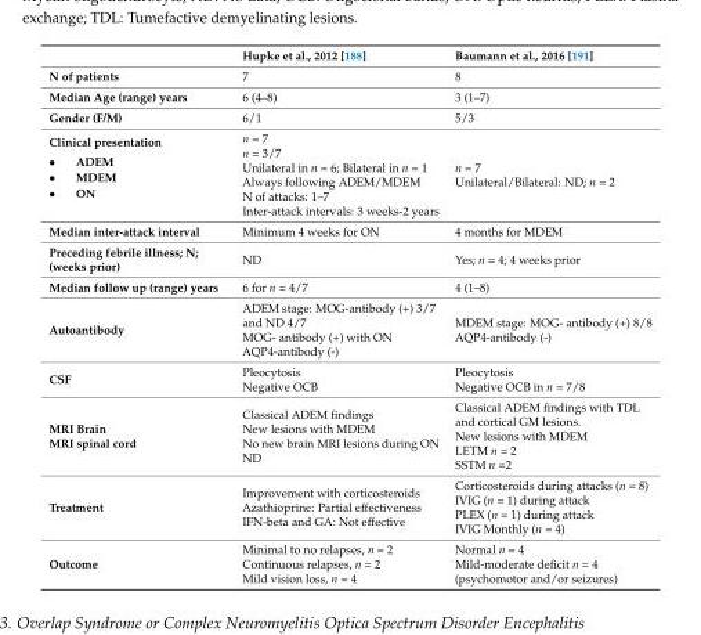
<table><thead><tr><td></td><td>Hupke et al., 2012 [188]</td><td>Baumann et al., 2016 [191]</td></tr></thead><tbody><tr><td>N of patients</td><td>7</td><td>8</td></tr><tr><td>Median Age (range) years</td><td>6 (4–8)</td><td>3 (1–7)</td></tr><tr><td>Gender (F/M)</td><td>6/1</td><td>5/3</td></tr><tr><td>Clinical presentation • ADEM • MDEM • ON</td><td>n = 7 n = 3/7 Unilateral in n = 6; Bilateral in n = 1 Always following ADEM/MDEM N of attacks: 1–7 Inter-attack intervals: 3 weeks-2 years</td><td>n = 7 Unilateral/Bilateral: ND; n = 2</td></tr><tr><td>Median inter-attack interval</td><td>Minimum 4 weeks for ON</td><td>4 months for MDEM</td></tr><tr><td>Preceding febrile illness; N; (weeks prior)</td><td>ND</td><td>Yes; n = 4; 4 weeks prior</td></tr><tr><td>Median follow up (range) years</td><td>6 for n = 4/7</td><td>4 (1–8)</td></tr><tr><td>Autoantibody</td><td>ADEM stage: MOG-antibody (+) 3/7 and ND 4/7 MOG- antibody (+) with ON AQP4-antibody (-)</td><td>MDEM stage: MOG- antibody (+) 8/8 AQP4-antibody (-)</td></tr><tr><td>CSF</td><td>Pleocytosis Negative OCB</td><td>Pleocytosis Negative OCB in n = 7/8</td></tr><tr><td>MRI Brain MRI spinal cord</td><td>Classical ADEM findings New lesions with MDEM No new brain MRI lesions during ON ND</td><td>Classical ADEM findings with TDL and cortical GM lesions. New lesions with MDEM LETM n = 2 SSTM n =2</td></tr><tr><td>Treatment</td><td>Improvement with corticosteroids Azathioprine: Partial effectiveness IFN-beta and GA: Not effective</td><td>Corticosteroids during attacks (n = 8) IVIG (n = 1) during attack PLEX (n = 1) during attack IVIG Monthly (n = 4)</td></tr><tr><td>Outcome</td><td>Minimal to no relapses, n = 2 Continuous relapses, n = 2 Mild vision loss, n = 4</td><td>Normal n = 4 Mild-moderate deficit n = 4 (psychomotor and/or seizures)</td></tr></tbody></table>